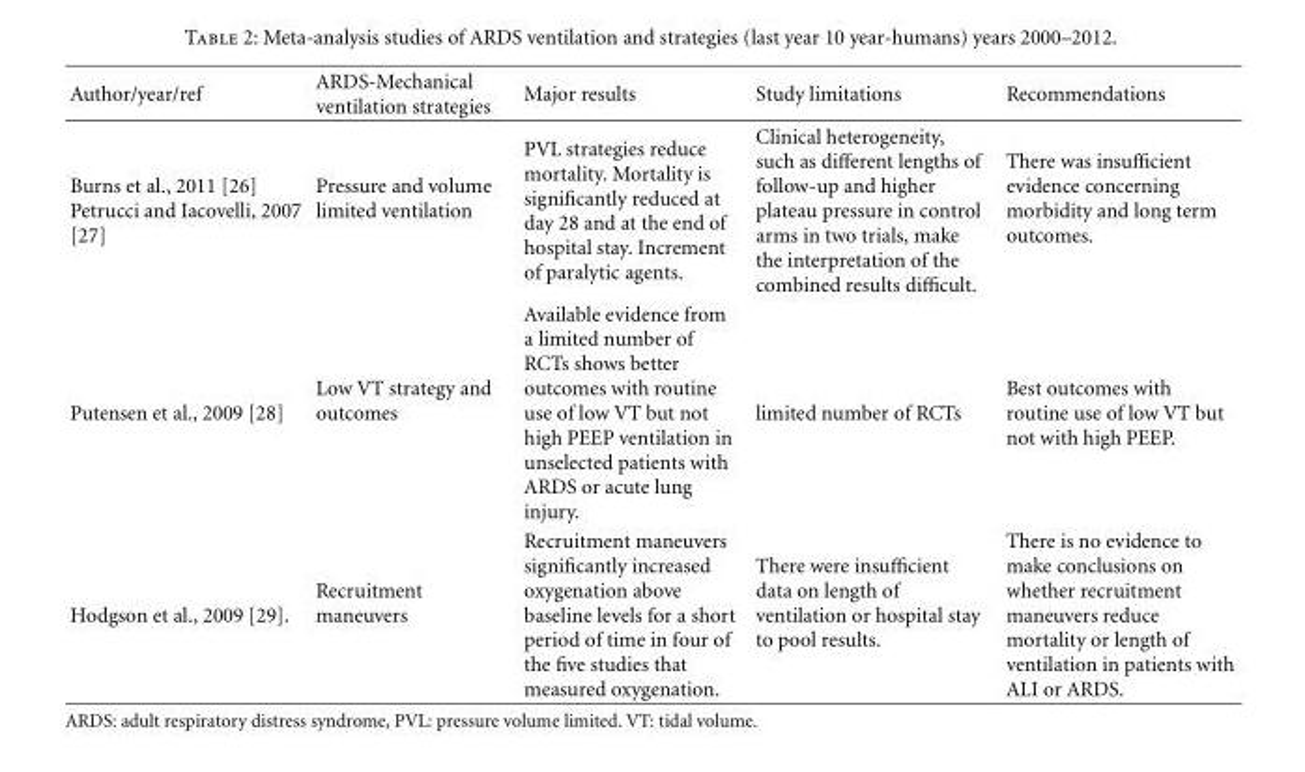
<table><thead><tr><td>Author/year/ref</td><td>ARDS-Mechanical ventilation strategies</td><td>Major results</td><td>Study limitations</td><td>Recommendations</td></tr></thead><tbody><tr><td>Burns et al., 2011 [26] Petrucci and Iacovelli, 2007 [27]</td><td>Pressure and volume limited ventilation</td><td>PVL strategies reduce mortality. Mortality is significantly reduced at day 28 and at the end of hospital stay. Increment of paralytic agents.</td><td>Clinical heterogeneity, such as different lengths of follow-up and higher plateau pressure in control arms in two trials, make the interpretation of the combined results difficult.</td><td>There was insufficient evidence concerning morbidity and long term outcomes.</td></tr><tr><td>Putensen et al., 2009 [28]</td><td>Low VT strategy and outcomes</td><td>Available evidence from a limited number of RCTs shows better outcomes with routine use of low VT but not high PEEP ventilation in unselected patients with ARDS or acute lung injury.</td><td>limited number of RCTs</td><td>Best outcomes with routine use of low VT but not with high PEEP.</td></tr><tr><td>Hodgson et al., 2009 [29].</td><td>Recruitment maneuvers</td><td>Recruitment maneuvers significantly increased oxygenation above baseline levels for a short period of time in four of the five studies that measured oxygenation.</td><td>There were insufficient data on length of ventilation or hospital stay to pool results.</td><td>There is no evidence to make conclusions on whether recruitment maneuvers reduce mortality or length of ventilation in patients with ALI or ARDS.</td></tr></tbody></table>